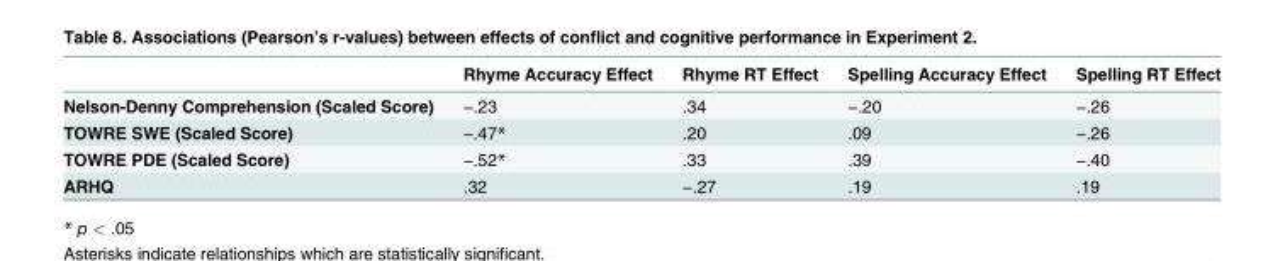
<table><thead><tr><td></td><td>Rhyme Accuracy Effect</td><td>Rhyme RT Effect</td><td>Spelling Accuracy Effect</td><td>Spelling RT Effect</td></tr></thead><tbody><tr><td>Nelson-Denny Comprehension (Scaled Score)</td><td>−.23</td><td>.34</td><td>−.20</td><td>−.26</td></tr><tr><td>TOWRE SWE (Scaled Score)</td><td>−.47*</td><td>.20</td><td>.09</td><td>−.26</td></tr><tr><td>TOWRE PDE (Scaled Score)</td><td>−.52*</td><td>.33</td><td>.39</td><td>−.40</td></tr><tr><td>ARHQ</td><td>.32</td><td>−.27</td><td>.19</td><td>.19</td></tr></tbody></table>